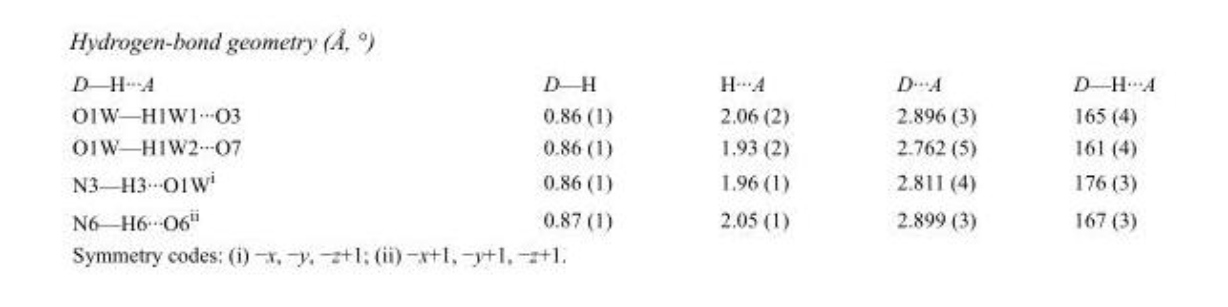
<table><tbody><tr><td>D—H···A</td><td>D—H</td><td>H···A</td><td>D···A</td><td>D—H···A</td></tr><tr><td>O1W—H1W1···O3</td><td>0.86 (1)</td><td>2.06 (2)</td><td>2.896 (3)</td><td>165 (4)</td></tr><tr><td>O1W—H1W2···O7</td><td>0.86 (1)</td><td>1.93 (2)</td><td>2.762 (5)</td><td>161 (4)</td></tr><tr><td>N3—H3···O1W<sup>i</sup></td><td>0.86 (1)</td><td>1.96 (1)</td><td>2.811 (4)</td><td>176 (3)</td></tr><tr><td>N6—H6···O6<sup>ii</sup></td><td>0.87 (1)</td><td>2.05 (1)</td><td>2.899 (3)</td><td>167 (3)</td></tr></tbody></table>